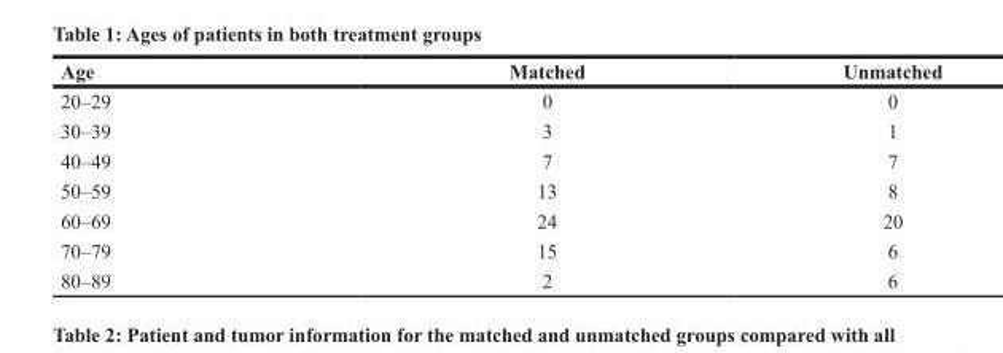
<table><thead><tr><td>Age</td><td>Matched</td><td>Unmatched</td></tr></thead><tbody><tr><td>20–29</td><td>0</td><td>0</td></tr><tr><td>30–39</td><td>3</td><td>1</td></tr><tr><td>40–49</td><td>7</td><td>7</td></tr><tr><td>50–59</td><td>13</td><td>8</td></tr><tr><td>60–69</td><td>24</td><td>20</td></tr><tr><td>70–79</td><td>15</td><td>6</td></tr><tr><td>80–89</td><td>2</td><td>6</td></tr></tbody></table>